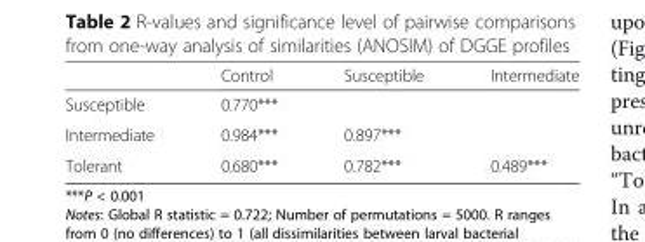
<table><thead><tr><td></td><td>Control</td><td>Susceptible</td><td>Intermediate</td></tr></thead><tbody><tr><td>Susceptible</td><td>0.770***</td><td></td><td></td></tr><tr><td>Intermediate</td><td>0.984***</td><td>0.897***</td><td></td></tr><tr><td>Tolerant</td><td>0.680***</td><td>0.782***</td><td>0.489***</td></tr></tbody></table>